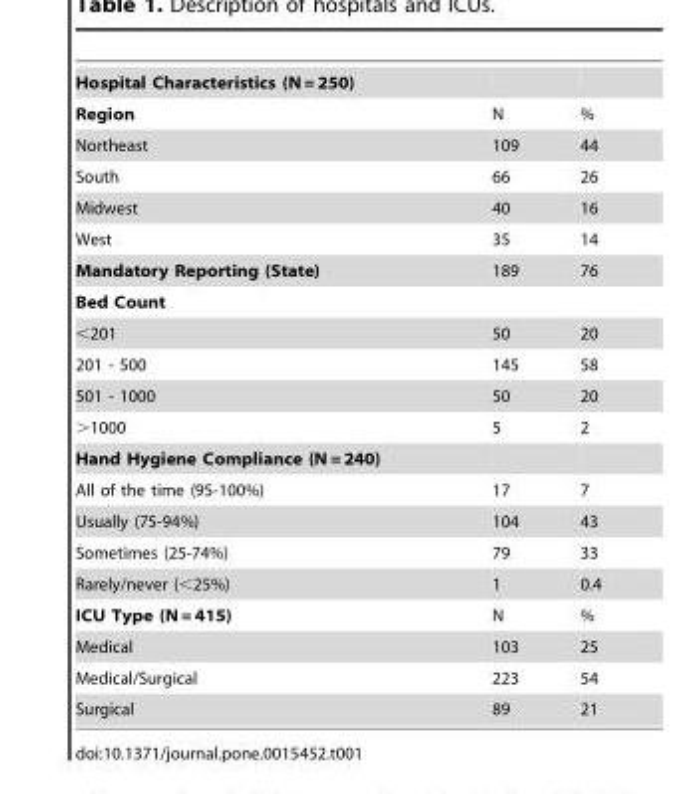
<table><tbody><tr><td colspan="3">Hospital Characteristics (N = 250)</td></tr><tr><td>Region</td><td>N</td><td>%</td></tr><tr><td>Northeast</td><td>109</td><td>44</td></tr><tr><td>South</td><td>66</td><td>26</td></tr><tr><td>Midwest</td><td>40</td><td>16</td></tr><tr><td>West</td><td>35</td><td>14</td></tr><tr><td>Mandatory Reporting (State)</td><td>189</td><td>76</td></tr><tr><td colspan="3">Bed Count</td></tr><tr><td>&lt;201</td><td>50</td><td>20</td></tr><tr><td>201 - 500</td><td>145</td><td>58</td></tr><tr><td>501 - 1000</td><td>50</td><td>20</td></tr><tr><td>&gt;1000</td><td>5</td><td>2</td></tr><tr><td colspan="3">Hand Hygiene Compliance (N = 240)</td></tr><tr><td>All of the time (95-100%)</td><td>17</td><td>7</td></tr><tr><td>Usually (75-94%)</td><td>104</td><td>43</td></tr><tr><td>Sometimes (25-74%)</td><td>79</td><td>33</td></tr><tr><td>Rarely/never (&lt;25%)</td><td>1</td><td>0.4</td></tr><tr><td>ICU Type (N = 415)</td><td>N</td><td>%</td></tr><tr><td>Medical</td><td>103</td><td>25</td></tr><tr><td>Medical/Surgical</td><td>223</td><td>54</td></tr><tr><td>Surgical</td><td>89</td><td>21</td></tr></tbody></table>